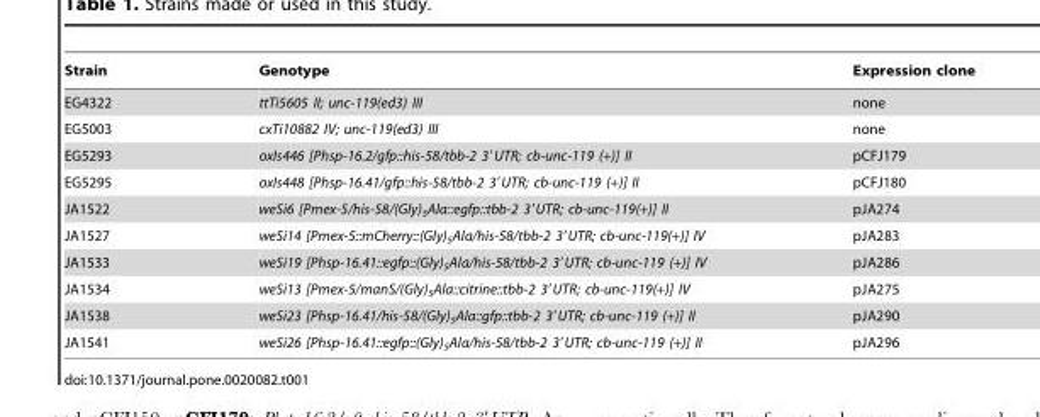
<table><thead><tr><td>Strain</td><td>Genotype</td><td>Expression clone</td></tr></thead><tbody><tr><td>EG4322</td><td>ttTi5605 II; unc-119(ed3) III</td><td>none</td></tr><tr><td>EG5003</td><td>cxTi10882 IV; unc-119(ed3) III</td><td>none</td></tr><tr><td>EG5293</td><td>oxIs446 [Phsp-16.2/gfp::his-58/tbb-2 3′UTR; cb-unc-119 (+)] II</td><td>pCFJ179</td></tr><tr><td>EG5295</td><td>oxIs448 [Phsp-16.41/gfp::his-58/tbb-2 3′UTR; cb-unc-119 (+)] II</td><td>pCFJ180</td></tr><tr><td>JA1522</td><td>weSi6 [Pmex-5/his-58/(Gly)<sub>5</sub>Ala::egfp::tbb-2 3′UTR; cb-unc-119(+)] II</td><td>pJA274</td></tr><tr><td>JA1527</td><td>weSi14 [Pmex-5::mCherry::(Gly)<sub>5</sub>Ala/his-58/tbb-2 3′UTR; cb-unc-119(+)] IV</td><td>pJA283</td></tr><tr><td>JA1533</td><td>weSi19 [Phsp-16.41::egfp::(Gly)<sub>5</sub>Ala/his-58/tbb-2 3′UTR; cb-unc-119 (+)] IV</td><td>pJA286</td></tr><tr><td>JA1534</td><td>weSi13 [Pmex-5/manS/(Gly)<sub>5</sub>Ala::citrine::tbb-2 3′UTR; cb-unc-119(+)] IV</td><td>pJA275</td></tr><tr><td>JA1538</td><td>weSi23 [Phsp-16.41/his-58/(Gly)<sub>5</sub>Ala::gfp::tbb-2 3′UTR; cb-unc-119 (+)] II</td><td>pJA290</td></tr><tr><td>JA1541</td><td>weSi26 [Phsp-16.41::egfp::(Gly)<sub>5</sub>Ala/his-58/tbb-2 3′UTR; cb-unc-119 (+)] II</td><td>pJA296</td></tr></tbody></table>